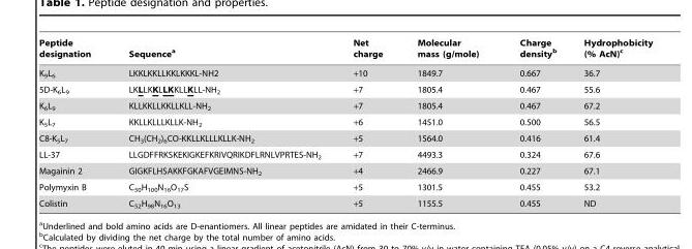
<table><thead><tr><td>Peptide designation</td><td>Sequence<sup>a</sup></td><td>Net charge</td><td>Molecular mass (g/mole)</td><td>Charge density<sup>b</sup></td><td>Hydrophobicity (% AcN)<sup>c</sup></td></tr></thead><tbody><tr><td>K<sub>9</sub>L<sub>6</sub></td><td>LKKLKKLLKKLKKKL-NH2</td><td>+10</td><td>1849.7</td><td>0.667</td><td>36.7</td></tr><tr><td>5D-K<sub>6</sub>L<sub>9</sub></td><td>LKLLKKLLKKLLKLL-NH<sub>2</sub></td><td>+7</td><td>1805.4</td><td>0.467</td><td>55.6</td></tr><tr><td>K<sub>6</sub>L<sub>9</sub></td><td>KLLKKLLKKLLKLL-NH<sub>2</sub></td><td>+7</td><td>1805.4</td><td>0.467</td><td>67.2</td></tr><tr><td>K<sub>5</sub>L<sub>7</sub></td><td>KKLLKLLLKLLK-NH<sub>2</sub></td><td>+6</td><td>1451.0</td><td>0.500</td><td>56.5</td></tr><tr><td>C8-K<sub>5</sub>L<sub>7</sub></td><td>CH<sub>3</sub>(CH<sub>2</sub>)<sub>6</sub>CO-KKLLKLLLKLLK-NH<sub>2</sub></td><td>+5</td><td>1564.0</td><td>0.416</td><td>61.4</td></tr><tr><td>LL-37</td><td>LLGDFFRKSKEKIGKEFKRIVQRIKDFLRNLVPRTES-NH<sub>2</sub></td><td>+7</td><td>4493.3</td><td>0.324</td><td>67.6</td></tr><tr><td>Magainin 2</td><td>GIGKFLHSAKKFGKAFVGEIMNS-NH<sub>2</sub></td><td>+4</td><td>2466.9</td><td>0.227</td><td>67.1</td></tr><tr><td>Polymyxin B</td><td>C<sub>50</sub>H<sub>100</sub>N<sub>16</sub>O<sub>17</sub>S</td><td>+5</td><td>1301.5</td><td>0.455</td><td>53.2</td></tr><tr><td>Colistin</td><td>C<sub>52</sub>H<sub>98</sub>N<sub>16</sub>O<sub>13</sub></td><td>+5</td><td>1155.5</td><td>0.455</td><td>ND</td></tr></tbody></table>